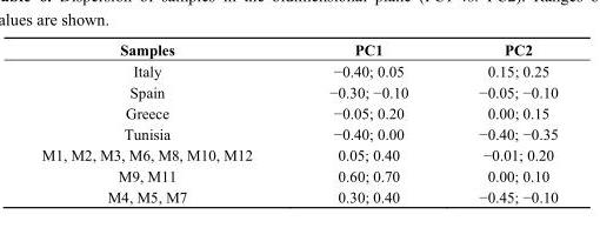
<table><thead><tr><td>Samples</td><td>PC1</td><td>PC2</td></tr></thead><tbody><tr><td>Italy</td><td>−0.40; 0.05</td><td>0.15; 0.25</td></tr><tr><td>Spain</td><td>−0.30; −0.10</td><td>−0.05; −0.10</td></tr><tr><td>Greece</td><td>−0.05; 0.20</td><td>0.00; 0.15</td></tr><tr><td>Tunisia</td><td>−0.40; 0.00</td><td>−0.40; −0.35</td></tr><tr><td>M1, M2, M3, M6, M8, M10, M12</td><td>0.05; 0.40</td><td>−0.01; 0.20</td></tr><tr><td>M9, M11</td><td>0.60; 0.70</td><td>0.00; 0.10</td></tr><tr><td>M4, M5, M7</td><td>0.30; 0.40</td><td>−0.45; −0.10</td></tr></tbody></table>